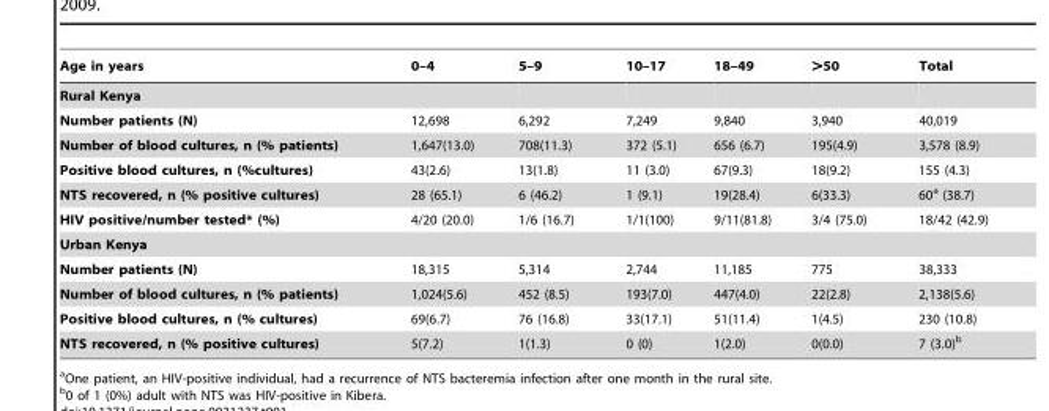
<table><thead><tr><td>Age in years</td><td>0–4</td><td>5–9</td><td>10–17</td><td>18–49</td><td>&gt;50</td><td>Total</td></tr></thead><tbody><tr><td colspan="7">Rural Kenya</td></tr><tr><td>Number patients (N)</td><td>12,698</td><td>6,292</td><td>7,249</td><td>9,840</td><td>3,940</td><td>40,019</td></tr><tr><td>Number of blood cultures, n (% patients)</td><td>1,647(13.0)</td><td>708(11.3)</td><td>372 (5.1)</td><td>656 (6.7)</td><td>195(4.9)</td><td>3,578 (8.9)</td></tr><tr><td>Positive blood cultures, n (%cultures)</td><td>43(2.6)</td><td>13(1.8)</td><td>11 (3.0)</td><td>67(9.3)</td><td>18(9.2)</td><td>155 (4.3)</td></tr><tr><td>NTS recovered, n (% positive cultures)</td><td>28 (65.1)</td><td>6 (46.2)</td><td>1 (9.1)</td><td>19(28.4)</td><td>6(33.3)</td><td>60<sup>a</sup> (38.7)</td></tr><tr><td>HIV positive/number tested* (%)</td><td>4/20 (20.0)</td><td>1/6 (16.7)</td><td>1/1(100)</td><td>9/11(81.8)</td><td>3/4 (75.0)</td><td>18/42 (42.9)</td></tr><tr><td colspan="7">Urban Kenya</td></tr><tr><td>Number patients (N)</td><td>18,315</td><td>5,314</td><td>2,744</td><td>11,185</td><td>775</td><td>38,333</td></tr><tr><td>Number of blood cultures, n (% patients)</td><td>1,024(5.6)</td><td>452 (8.5)</td><td>193(7.0)</td><td>447(4.0)</td><td>22(2.8)</td><td>2,138(5.6)</td></tr><tr><td>Positive blood cultures, n (% cultures)</td><td>69(6.7)</td><td>76 (16.8)</td><td>33(17.1)</td><td>51(11.4)</td><td>1(4.5)</td><td>230 (10.8)</td></tr><tr><td>NTS recovered, n (% positive cultures)</td><td>5(7.2)</td><td>1(1.3)</td><td>0 (0)</td><td>1(2.0)</td><td>0(0.0)</td><td>7 (3.0)<sup>b</sup></td></tr></tbody></table>